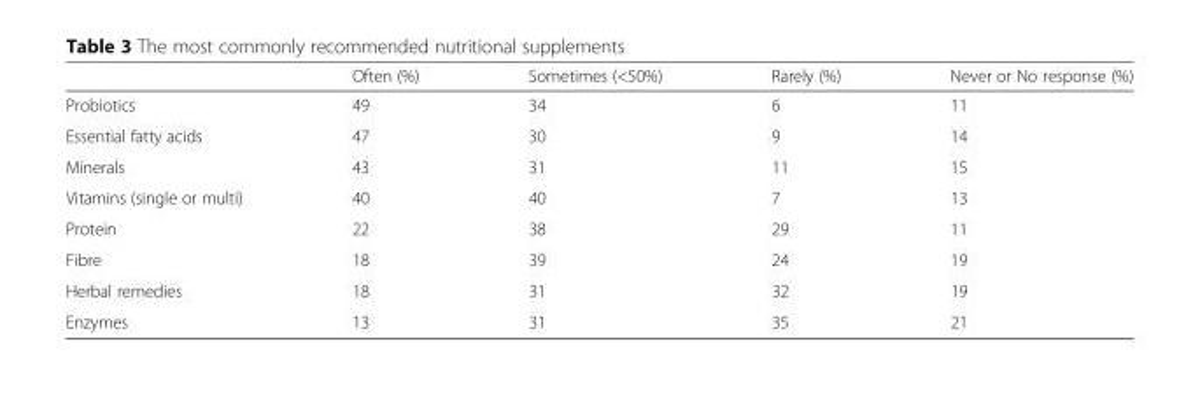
<table><thead><tr><td></td><td>Often (%)</td><td>Sometimes (&lt;50%)</td><td>Rarely (%)</td><td>Never or No response (%)</td></tr></thead><tbody><tr><td>Probiotics</td><td>49</td><td>34</td><td>6</td><td>11</td></tr><tr><td>Essential fatty acids</td><td>47</td><td>30</td><td>9</td><td>14</td></tr><tr><td>Minerals</td><td>43</td><td>31</td><td>11</td><td>15</td></tr><tr><td>Vitamins (single or multi)</td><td>40</td><td>40</td><td>7</td><td>13</td></tr><tr><td>Protein</td><td>22</td><td>38</td><td>29</td><td>11</td></tr><tr><td>Fibre</td><td>18</td><td>39</td><td>24</td><td>19</td></tr><tr><td>Herbal remedies</td><td>18</td><td>31</td><td>32</td><td>19</td></tr><tr><td>Enzymes</td><td>13</td><td>31</td><td>35</td><td>21</td></tr></tbody></table>